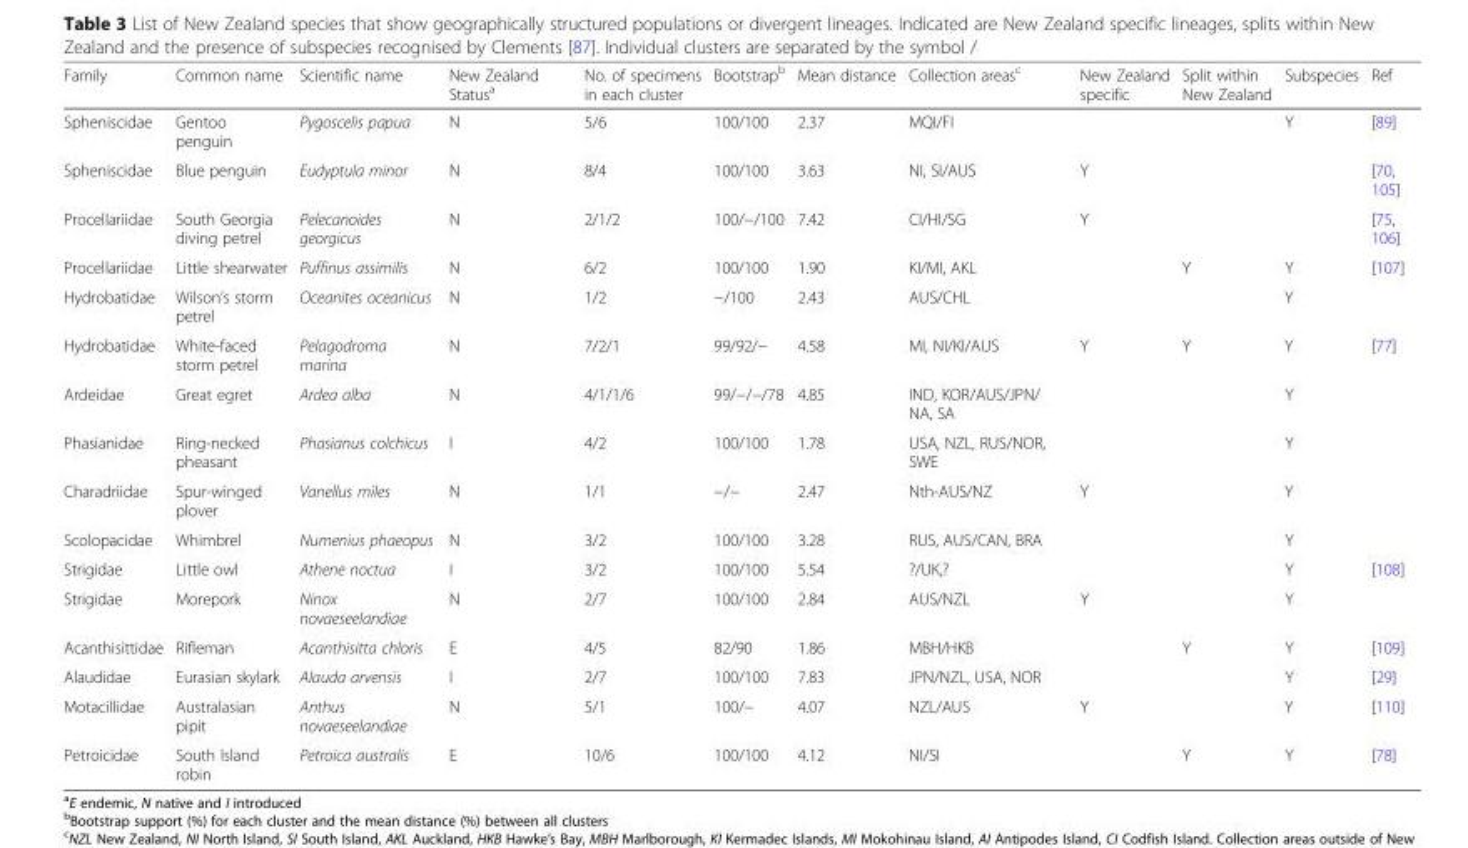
<table><thead><tr><td>Family</td><td>Common name</td><td>Scientific name</td><td>New Zealand Status<sup>a</sup></td><td>No. of specimens in each cluster</td><td>Bootstrap<sup>b</sup></td><td>Mean distance</td><td>Collection areas<sup>c</sup></td><td>New Zealand specific</td><td>Split within New Zealand</td><td>Subspecies</td><td>Ref</td></tr></thead><tbody><tr><td>Spheniscidae</td><td>Gentoo penguin</td><td>Pygoscelis papua</td><td>N</td><td>5/6</td><td>100/100</td><td>2.37</td><td>MQI/FI</td><td></td><td></td><td>Y</td><td>[89]</td></tr><tr><td>Spheniscidae</td><td>Blue penguin</td><td>Eudyptula minor</td><td>N</td><td>8/4</td><td>100/100</td><td>3.63</td><td>NI, SI/AUS</td><td>Y</td><td></td><td></td><td>[70, 105]</td></tr><tr><td>Procellariidae</td><td>South Georgia diving petrel</td><td>Pelecanoides georgicus</td><td>N</td><td>2/1/2</td><td>100/−/100</td><td>7.42</td><td>CI/HI/SG</td><td>Y</td><td></td><td></td><td>[75, 106]</td></tr><tr><td>Procellariidae</td><td>Little shearwater</td><td>Puffinus assimilis</td><td>N</td><td>6/2</td><td>100/100</td><td>1.90</td><td>KI/MI, AKL</td><td></td><td>Y</td><td>Y</td><td>[107]</td></tr><tr><td>Hydrobatidae</td><td>Wilson’s storm petrel</td><td>Oceanites oceanicus</td><td>N</td><td>1/2</td><td>−/100</td><td>2.43</td><td>AUS/CHL</td><td></td><td></td><td>Y</td><td></td></tr><tr><td>Hydrobatidae</td><td>White-faced storm petrel</td><td>Pelagodroma marina</td><td>N</td><td>7/2/1</td><td>99/92/−</td><td>4.58</td><td>MI, NI/KI/AUS</td><td>Y</td><td>Y</td><td>Y</td><td>[77]</td></tr><tr><td>Ardeidae</td><td>Great egret</td><td>Ardea alba</td><td>N</td><td>4/1/1/6</td><td>99/−/−/78</td><td>4.85</td><td>IND, KOR/AUS/JPN/ NA, SA</td><td></td><td></td><td>Y</td><td></td></tr><tr><td>Phasianidae</td><td>Ring-necked pheasant</td><td>Phasianus colchicus</td><td>I</td><td>4/2</td><td>100/100</td><td>1.78</td><td>USA, NZL, RUS/NOR, SWE</td><td></td><td></td><td>Y</td><td></td></tr><tr><td>Charadriidae</td><td>Spur-winged plover</td><td>Vanellus miles</td><td>N</td><td>1/1</td><td>−/−</td><td>2.47</td><td>Nth-AUS/NZ</td><td>Y</td><td></td><td>Y</td><td></td></tr><tr><td>Scolopacidae</td><td>Whimbrel</td><td>Numenius phaeopus</td><td>N</td><td>3/2</td><td>100/100</td><td>3.28</td><td>RUS, AUS/CAN, BRA</td><td></td><td></td><td>Y</td><td></td></tr><tr><td>Strigidae</td><td>Little owl</td><td>Athene noctua</td><td>I</td><td>3/2</td><td>100/100</td><td>5.54</td><td>?/UK,?</td><td></td><td></td><td>Y</td><td>[108]</td></tr><tr><td>Strigidae</td><td>Morepork</td><td>Ninox novaeseelandiae</td><td>N</td><td>2/7</td><td>100/100</td><td>2.84</td><td>AUS/NZL</td><td>Y</td><td></td><td>Y</td><td></td></tr><tr><td>Acanthisittidae</td><td>Rifleman</td><td>Acanthisitta chloris</td><td>E</td><td>4/5</td><td>82/90</td><td>1.86</td><td>MBH/HKB</td><td></td><td>Y</td><td>Y</td><td>[109]</td></tr><tr><td>Alaudidae</td><td>Eurasian skylark</td><td>Alauda arvensis</td><td>I</td><td>2/7</td><td>100/100</td><td>7.83</td><td>JPN/NZL, USA, NOR</td><td></td><td></td><td>Y</td><td>[29]</td></tr><tr><td>Motacillidae</td><td>Australasian pipit</td><td>Anthus novaeseelandiae</td><td>N</td><td>5/1</td><td>100/−</td><td>4.07</td><td>NZL/AUS</td><td>Y</td><td></td><td>Y</td><td>[110]</td></tr><tr><td>Petroicidae</td><td>South Island robin</td><td>Petroica australis</td><td>E</td><td>10/6</td><td>100/100</td><td>4.12</td><td>NI/SI</td><td></td><td>Y</td><td>Y</td><td>[78]</td></tr></tbody></table>